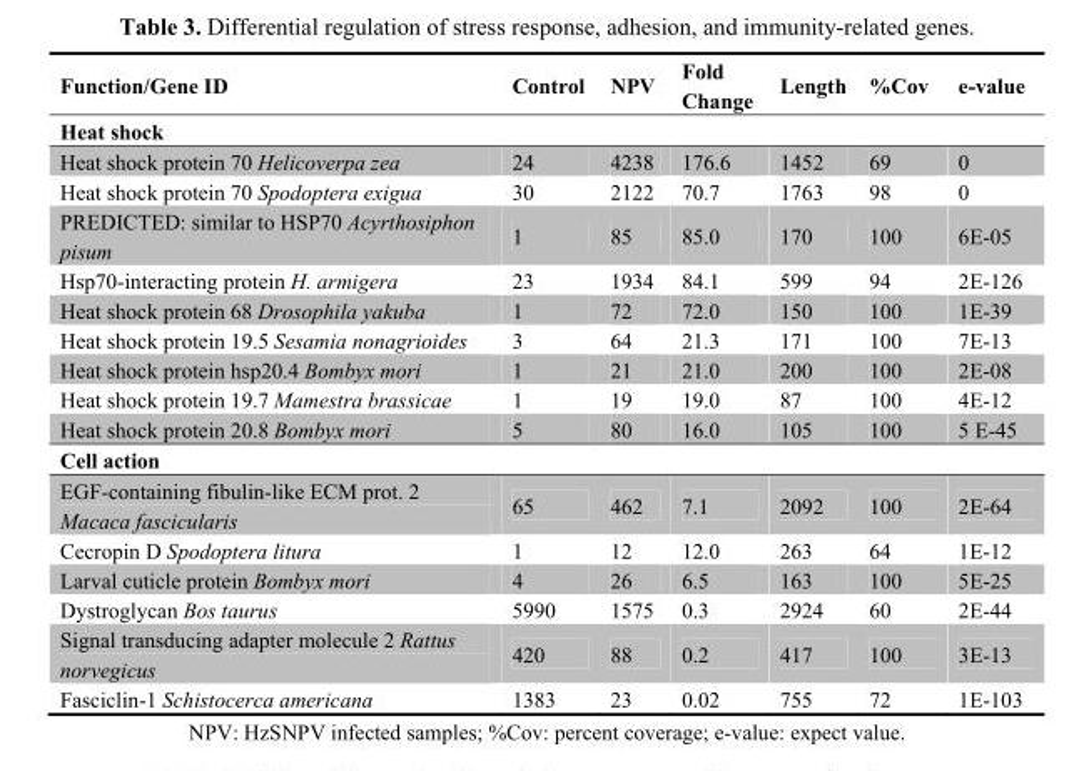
<table><thead><tr><td>Function/Gene ID</td><td>Control</td><td>NPV</td><td>Fold Change</td><td>Length</td><td>%Cov</td><td>e-value</td></tr></thead><tbody><tr><td colspan="7">Heat shock</td></tr><tr><td>Heat shock protein 70 Helicoverpa zea</td><td>24</td><td>4238</td><td>176.6</td><td>1452</td><td>69</td><td>0</td></tr><tr><td>Heat shock protein 70 Spodoptera exigua</td><td>30</td><td>2122</td><td>70.7</td><td>1763</td><td>98</td><td>0</td></tr><tr><td>PREDICTED: similar to HSP70 Acyrthosiphon pisum</td><td>1</td><td>85</td><td>85.0</td><td>170</td><td>100</td><td>6E-05</td></tr><tr><td>Hsp70-interacting protein H. armigera</td><td>23</td><td>1934</td><td>84.1</td><td>599</td><td>94</td><td>2E-126</td></tr><tr><td>Heat shock protein 68 Drosophila yakuba</td><td>1</td><td>72</td><td>72.0</td><td>150</td><td>100</td><td>1E-39</td></tr><tr><td>Heat shock protein 19.5 Sesamia nonagrioides</td><td>3</td><td>64</td><td>21.3</td><td>171</td><td>100</td><td>7E-13</td></tr><tr><td>Heat shock protein hsp20.4 Bombyx mori</td><td>1</td><td>21</td><td>21.0</td><td>200</td><td>100</td><td>2E-08</td></tr><tr><td>Heat shock protein 19.7 Mamestra brassicae</td><td>1</td><td>19</td><td>19.0</td><td>87</td><td>100</td><td>4E-12</td></tr><tr><td>Heat shock protein 20.8 Bombyx mori</td><td>5</td><td>80</td><td>16.0</td><td>105</td><td>100</td><td>5 E-45</td></tr><tr><td colspan="7">Cell action</td></tr><tr><td>EGF-containing fibulin-like ECM prot. 2 Macaca fascicularis</td><td>65</td><td>462</td><td>7.1</td><td>2092</td><td>100</td><td>2E-64</td></tr><tr><td>Cecropin D Spodoptera litura</td><td>1</td><td>12</td><td>12.0</td><td>263</td><td>64</td><td>1E-12</td></tr><tr><td>Larval cuticle protein Bombyx mori</td><td>4</td><td>26</td><td>6.5</td><td>163</td><td>100</td><td>5E-25</td></tr><tr><td>Dystroglycan Bos taurus</td><td>5990</td><td>1575</td><td>0.3</td><td>2924</td><td>60</td><td>2E-44</td></tr><tr><td>Signal transducing adapter molecule 2 Rattus norvegicus</td><td>420</td><td>88</td><td>0.2</td><td>417</td><td>100</td><td>3E-13</td></tr><tr><td>Fasciclin-1 Schistocerca americana</td><td>1383</td><td>23</td><td>0.02</td><td>755</td><td>72</td><td>1E-103</td></tr></tbody></table>